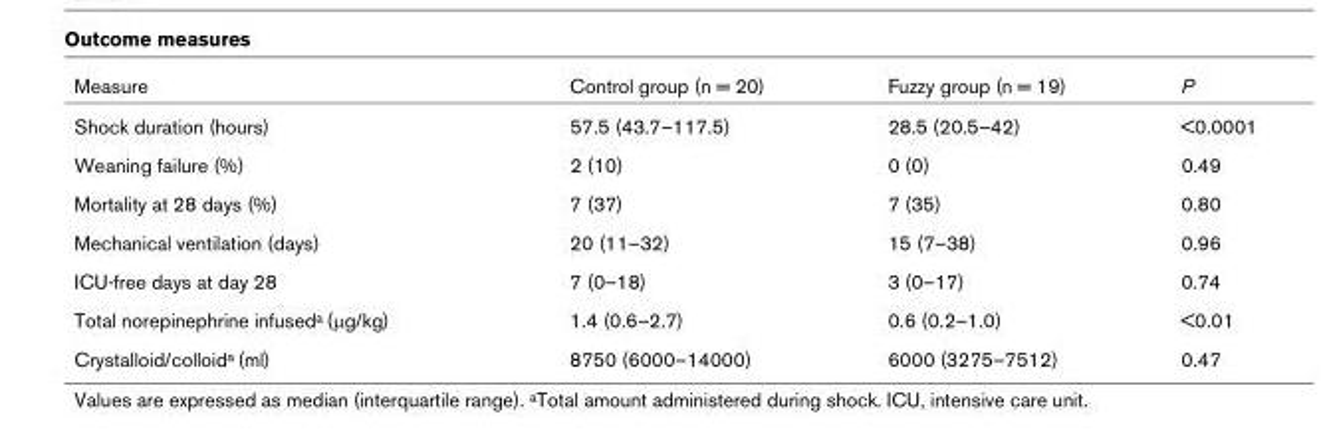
<table><thead><tr><td>Measure</td><td>Control group (n = 20)</td><td>Fuzzy group (n = 19)</td><td>P</td></tr></thead><tbody><tr><td>Shock duration (hours)</td><td>57.5 (43.7–117.5)</td><td>28.5 (20.5–42)</td><td>&lt;0.0001</td></tr><tr><td>Weaning failure (%)</td><td>2 (10)</td><td>0 (0)</td><td>0.49</td></tr><tr><td>Mortality at 28 days (%)</td><td>7 (37)</td><td>7 (35)</td><td>0.80</td></tr><tr><td>Mechanical ventilation (days)</td><td>20 (11–32)</td><td>15 (7–38)</td><td>0.96</td></tr><tr><td>ICU-free days at day 28</td><td>7 (0–18)</td><td>3 (0–17)</td><td>0.74</td></tr><tr><td>Total norepinephrine infused<sup>a</sup> (μg/kg)</td><td>1.4 (0.6–2.7)</td><td>0.6 (0.2–1.0)</td><td>&lt;0.01</td></tr><tr><td>Crystalloid/colloid<sup>a</sup> (ml)</td><td>8750 (6000–14000)</td><td>6000 (3275–7512)</td><td>0.47</td></tr></tbody></table>